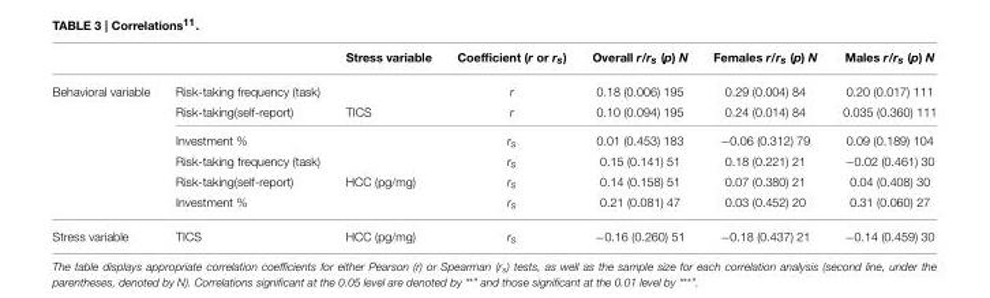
<table><thead><tr><td></td><td></td><td>Stress variable</td><td>Coefficient (r or rs)</td><td>Overall r/rs (p) N</td><td>Females r/rs (p) N</td><td>Males r/rs (p) N</td></tr></thead><tbody><tr><td rowspan="6">Behavioral variable</td><td>Risk-taking frequency (task)</td><td></td><td>r</td><td>0.18 (0.006) 195</td><td>0.29 (0.004) 84</td><td>0.20 (0.017) 111</td></tr><tr><td>Risk-taking(self-report)</td><td>TICS</td><td>r</td><td>0.10 (0.094) 195</td><td>0.24 (0.014) 84</td><td>0.035 (0.360) 111</td></tr><tr><td>Investment %</td><td></td><td>rs</td><td>0.01 (0.453) 183</td><td>−0.06 (0.312) 79</td><td>0.09 (0.189) 104</td></tr><tr><td>Risk-taking frequency (task)</td><td></td><td>rs</td><td>0.15 (0.141) 51</td><td>0.18 (0.221) 21</td><td>−0.02 (0.461) 30</td></tr><tr><td>Risk-taking(self-report)</td><td>HCC (pg/mg)</td><td>rs</td><td>0.14 (0.158) 51</td><td>0.07 (0.380) 21</td><td>0.04 (0.408) 30</td></tr><tr><td>Investment %</td><td></td><td>rs</td><td>0.21 (0.081) 47</td><td>0.03 (0.452) 20</td><td>0.31 (0.060) 27</td></tr><tr><td>Stress variable</td><td>TICS</td><td>HCC (pg/mg)</td><td>rs</td><td>−0.16 (0.260) 51</td><td>−0.18 (0.437) 21</td><td>−0.14 (0.459) 30</td></tr></tbody></table>